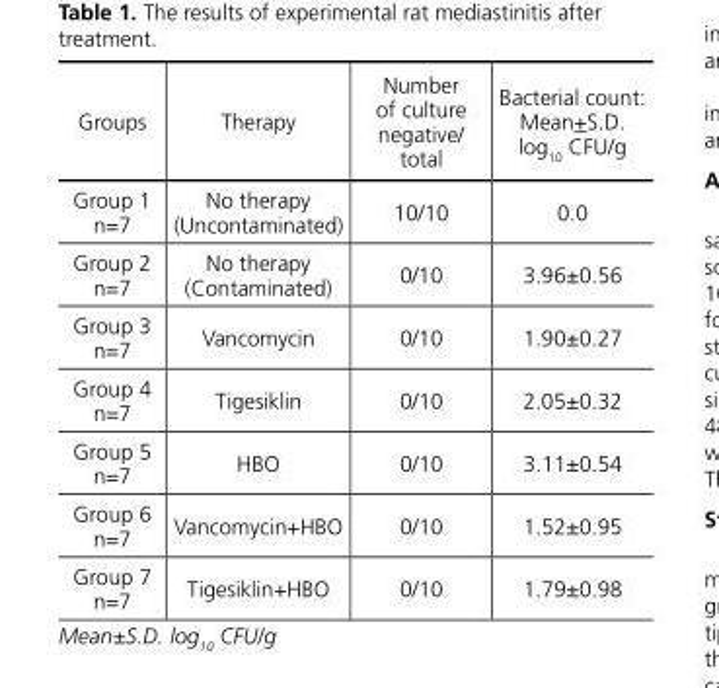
<table><thead><tr><td>Groups</td><td>Therapy</td><td>Number of culture negative/ total</td><td>Bacterial count: Mean+S.D. log10 CFU/g</td></tr></thead><tbody><tr><td>Group 1 n=7</td><td>No therapy (Uncontaminated)</td><td>10/10</td><td>0.0</td></tr><tr><td>Group 2 n=7</td><td>No therapy (Contaminated)</td><td>0/10</td><td>3.96±0.56</td></tr><tr><td>Group 3 n=7</td><td>Vancomycin</td><td>0/10</td><td>1.90±0.27</td></tr><tr><td>Group 4 n=7</td><td>Tigesiklin</td><td>0/10</td><td>2.05±0.32</td></tr><tr><td>Group 5 n=7</td><td>HBO</td><td>0/10</td><td>3.11±0.54</td></tr><tr><td>Group 6 n=7</td><td>Vancomycin+HBO</td><td>0/10</td><td>1.52±0.95</td></tr><tr><td>Group 7 n=7</td><td>Tigesiklin+HBO</td><td>0/10</td><td>1.79±0.98</td></tr></tbody></table>